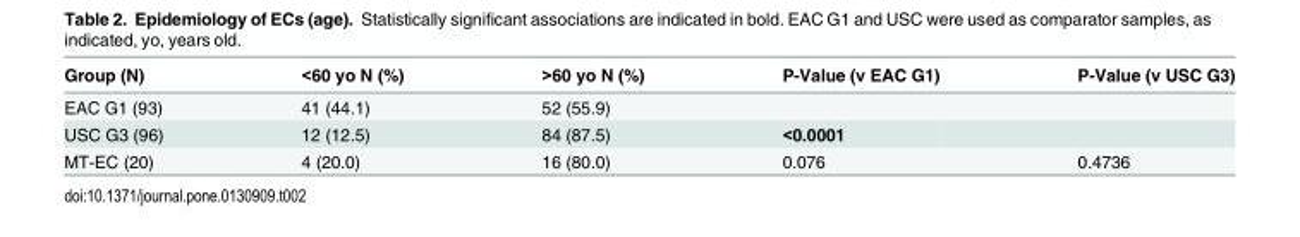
<table><thead><tr><td>Group (N)</td><td>&lt;60 yo N (%)</td><td>&gt;60 yo N (%)</td><td>P-Value (v EAC G1)</td><td>P-Value (v USC G3)</td></tr></thead><tbody><tr><td>EAC G1 (93)</td><td>41 (44.1)</td><td>52 (55.9)</td><td></td><td></td></tr><tr><td>USC G3 (96)</td><td>12 (12.5)</td><td>84 (87.5)</td><td>&lt;0.0001</td><td></td></tr><tr><td>MT-EC (20)</td><td>4 (20.0)</td><td>16 (80.0)</td><td>0.076</td><td>0.4736</td></tr></tbody></table>